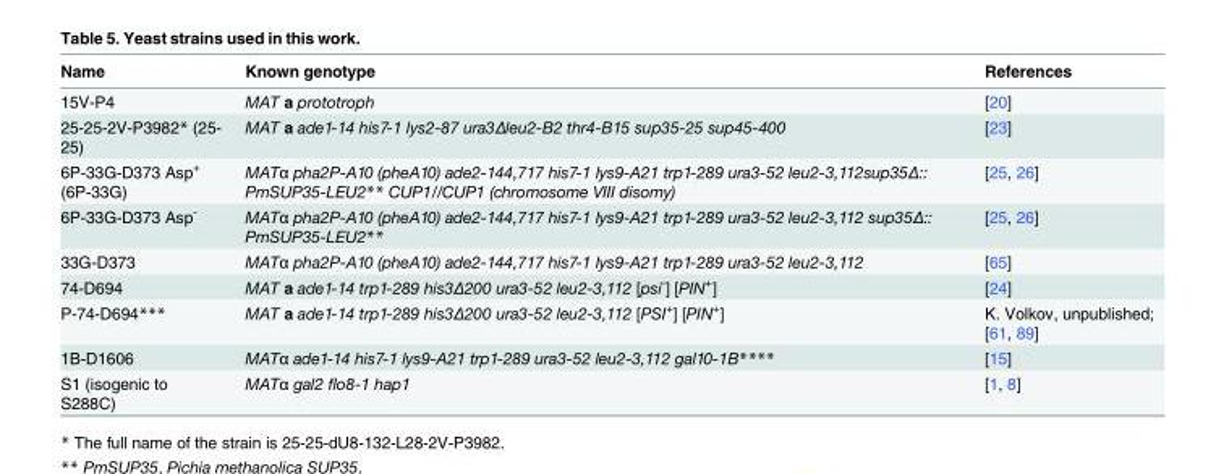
<table><thead><tr><td>Name</td><td>Known genotype</td><td>References</td></tr></thead><tbody><tr><td>15V-P4</td><td>MAT a prototroph</td><td>[20]</td></tr><tr><td>25-25-2V-P3982* (25- 25)</td><td>MAT a ade1-14 his7-1 lys2-87 ura3Δleu2-B2 thr4-B15 sup35-25 sup45-400</td><td>[23]</td></tr><tr><td>6P-33G-D373 Asp<sup>+</sup> (6P-33G)</td><td>MATα pha2P-A10 (pheA10) ade2-144,717 his7-1 lys9-A21 trp1-289 ura3-52 leu2-3,112sup35Δ:: PmSUP35-LEU2** CUP1//CUP1 (chromosome VIII disomy)</td><td>[25, 26]</td></tr><tr><td>6P-33G-D373 Asp<sup>-</sup></td><td>MATα pha2P-A10 (pheA10) ade2-144,717 his7-1 lys9-A21 trp1-289 ura3-52 leu2-3,112 sup35Δ:: PmSUP35-LEU2**</td><td>[25, 26]</td></tr><tr><td>33G-D373</td><td>MATα pha2P-A10 (pheA10) ade2-144,717 his7-1 lys9-A21 trp1-289 ura3-52 leu2-3,112</td><td>[65]</td></tr><tr><td>74-D694</td><td>MAT a ade1-14 trp1-289 his3Δ200 ura3-52 leu2-3,112 [psi<sup>-</sup>] [PIN<sup>+</sup>]</td><td>[24]</td></tr><tr><td>P-74-D694***</td><td>MAT a ade1-14 trp1-289 his3Δ200 ura3-52 leu2-3,112 [PSI<sup>+</sup>] [PIN<sup>+</sup>]</td><td>K. Volkov, unpublished; [61, 89]</td></tr><tr><td>1B-D1606</td><td>MATα ade1-14 his7-1 lys9-A21 trp1-289 ura3-52 leu2-3,112 gal10-1B****</td><td>[15]</td></tr><tr><td>S1 (isogenic to S288C)</td><td>MATα gal2 flo8-1 hap1</td><td>[1, 8]</td></tr></tbody></table>